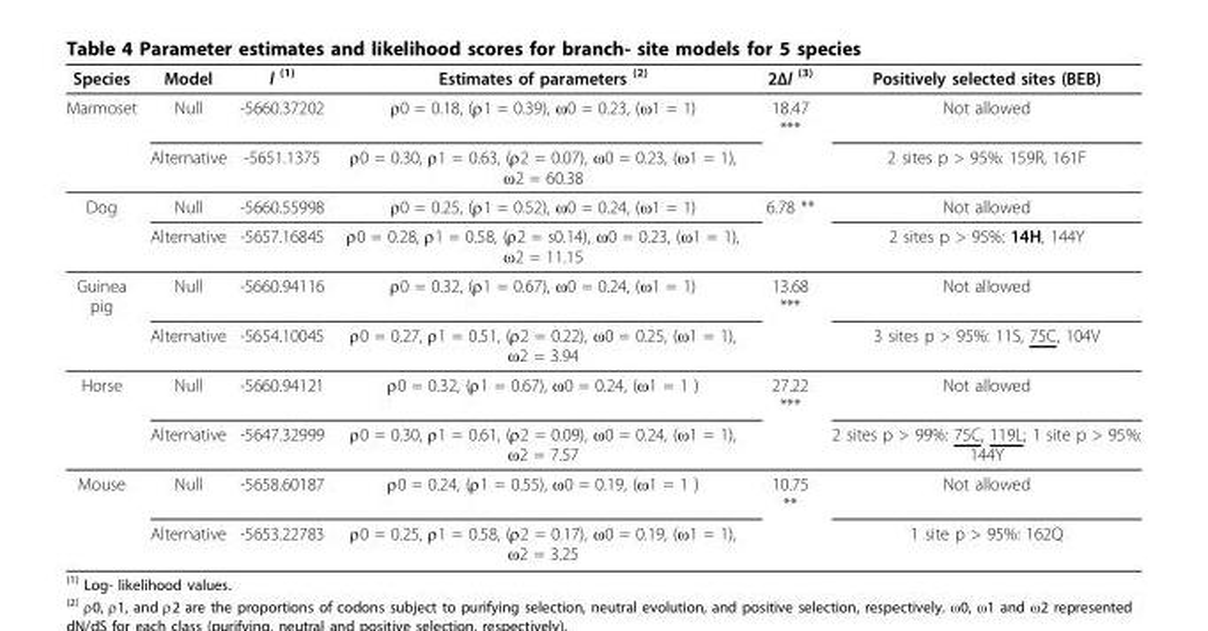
<table><thead><tr><td>Species</td><td>Model</td><td>l <sup>(1)</sup></td><td>Estimates of parameters <sup>(2)</sup></td><td>2Δl <sup>(3)</sup></td><td>Positively selected sites (BEB)</td></tr></thead><tbody><tr><td rowspan="2">Marmoset</td><td>Null</td><td>-5660.37202</td><td>ρ0 = 0.18, (ρ1 = 0.39), ω0 = 0.23, (ω1 = 1)</td><td>18.47 ***</td><td>Not allowed</td></tr><tr><td>Alternative</td><td>-5651.1375</td><td>ρ0 = 0.30, ρ1 = 0.63, (ρ2 = 0.07), ω0 = 0.23, (ω1 = 1), ω2 = 60.38</td><td></td><td>2 sites p &gt; 95%: 159R, 161F</td></tr><tr><td rowspan="2">Dog</td><td>Null</td><td>-5660.55998</td><td>ρ0 = 0.25, (ρ1 = 0.52), ω0 = 0.24, (ω1 = 1)</td><td>6.78 **</td><td>Not allowed</td></tr><tr><td>Alternative</td><td>-5657.16845</td><td>ρ0 = 0.28, ρ1 = 0.58, (ρ2 = s0.14), ω0 = 0.23, (ω1 = 1), ω2 = 11.15</td><td></td><td>2 sites p &gt; 95%: 14H, 144Y</td></tr><tr><td rowspan="2">Guinea pig</td><td>Null</td><td>-5660.94116</td><td>ρ0 = 0.32, (ρ1 = 0.67), ω0 = 0.24, (ω1 = 1)</td><td>13.68 ***</td><td>Not allowed</td></tr><tr><td>Alternative</td><td>-5654.10045</td><td>ρ0 = 0.27, ρ1 = 0.51, (ρ2 = 0.22), ω0 = 0.25, (ω1 = 1), ω2 = 3.94</td><td></td><td>3 sites p &gt; 95%: 11S, 75C, 104V</td></tr><tr><td rowspan="2">Horse</td><td>Null</td><td>-5660.94121</td><td>ρ0 = 0.32, (ρ1 = 0.67), ω0 = 0.24, (ω1 = 1 )</td><td>27.22 ***</td><td>Not allowed</td></tr><tr><td>Alternative</td><td>-5647.32999</td><td>ρ0 = 0.30, ρ1 = 0.61, (ρ2 = 0.09), ω0 = 0.24, (ω1 = 1), ω2 = 7.57</td><td></td><td>2 sites p &gt; 99%: 75C, 119L; 1 site p &gt; 95%: 144Y</td></tr><tr><td rowspan="2">Mouse</td><td>Null</td><td>-5658.60187</td><td>ρ0 = 0.24, (ρ1 = 0.55), ω0 = 0.19, (ω1 = 1 )</td><td>10.75 **</td><td>Not allowed</td></tr><tr><td>Alternative</td><td>-5653.22783</td><td>ρ0 = 0.25, ρ1 = 0.58, (ρ2 = 0.17), ω0 = 0.19, (ω1 = 1), ω2 = 3.25</td><td></td><td>1 site p &gt; 95%: 162Q</td></tr></tbody></table>